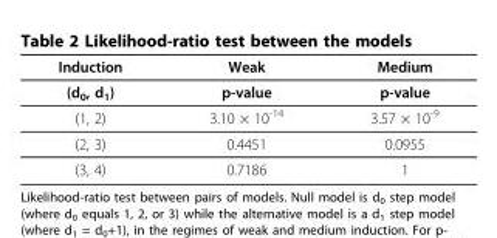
<table><thead><tr><td>Induction</td><td>Weak</td><td>Medium</td></tr></thead><tbody><tr><td>(d<sub>0</sub>, d<sub>1</sub>)</td><td>p-value</td><td>p-value</td></tr><tr><td>(1, 2)</td><td>3.10 × 10<sup>-14</sup></td><td>3.57 × 10<sup>-9</sup></td></tr><tr><td>(2, 3)</td><td>0.4451</td><td>0.0955</td></tr><tr><td>(3, 4)</td><td>0.7186</td><td>1</td></tr></tbody></table>